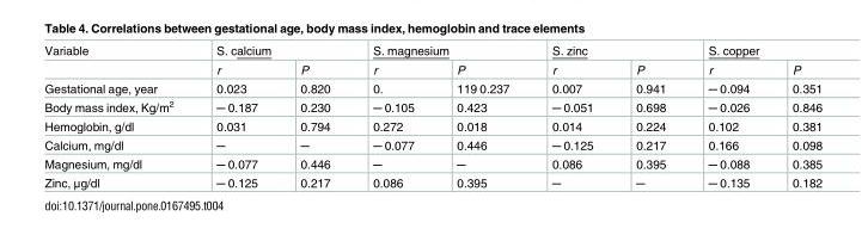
<table><tbody><tr><td rowspan="2">Variable</td><td colspan="2">S. calcium</td><td colspan="2">S. magnesium</td><td colspan="2">S. zinc</td><td colspan="2">S. copper</td></tr><tr><td>r</td><td>P</td><td>r</td><td>P</td><td>r</td><td>P</td><td>r</td><td>P</td></tr><tr><td>Gestational age, year</td><td>0.023</td><td>0.820</td><td>0.</td><td>119 0.237</td><td>0.007</td><td>0.941</td><td>─ 0.094</td><td>0.351</td></tr><tr><td>Body mass index, Kg/m<sup>2</sup></td><td>─ 0.187</td><td>0.230</td><td>─ 0.105</td><td>0.423</td><td>─ 0.051</td><td>0.698</td><td>─ 0.026</td><td>0.846</td></tr><tr><td>Hemoglobin, g/dl</td><td>0.031</td><td>0.794</td><td>0.272</td><td>0.018</td><td>0.014</td><td>0.224</td><td>0.102</td><td>0.381</td></tr><tr><td>Calcium, mg/dl</td><td>─</td><td>─</td><td>─ 0.077</td><td>0.446</td><td>─ 0.125</td><td>0.217</td><td>0.166</td><td>0.098</td></tr><tr><td>Magnesium, mg/dl</td><td>─ 0.077</td><td>0.446</td><td>─</td><td>─</td><td>0.086</td><td>0.395</td><td>─ 0.088</td><td>0.385</td></tr><tr><td>Zinc, µg/dl</td><td>─ 0.125</td><td>0.217</td><td>0.086</td><td>0.395</td><td>─</td><td>─</td><td>─ 0.135</td><td>0.182</td></tr></tbody></table>